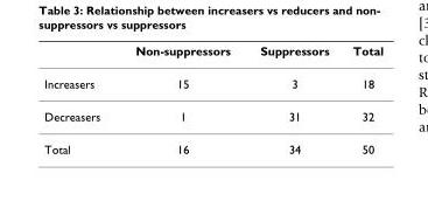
<table><thead><tr><td></td><td>Non-suppressors</td><td>Suppressors</td><td>Total</td></tr></thead><tbody><tr><td>Increasers</td><td>15</td><td>3</td><td>18</td></tr><tr><td>Decreasers</td><td>1</td><td>31</td><td>32</td></tr><tr><td>Total</td><td>16</td><td>34</td><td>50</td></tr></tbody></table>